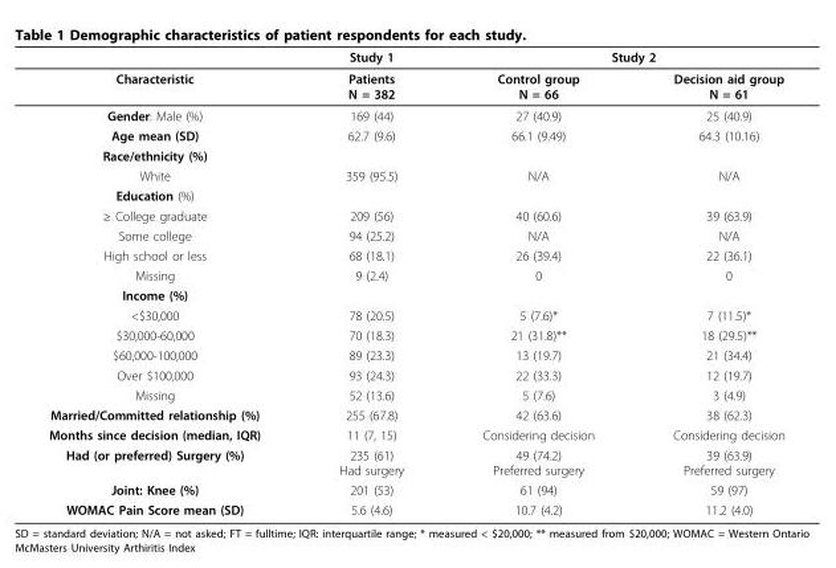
<table><thead><tr><td rowspan="2">Characteristic</td><td rowspan="2">Study 1 Patients N = 382</td><td colspan="2">Study 2</td></tr><tr><td>Control group N = 66</td><td>Decision aid group N = 61</td></tr></thead><tbody><tr><td>Gender: Male (%)</td><td>169 (44)</td><td>27 (40.9)</td><td>25 (40.9)</td></tr><tr><td>Age mean (SD)</td><td>62.7 (9.6)</td><td>66.1 (9.49)</td><td>64.3 (10.16)</td></tr><tr><td colspan="4">Race/ethnicity (%)</td></tr><tr><td>White</td><td>359 (95.5)</td><td>N/A</td><td>N/A</td></tr><tr><td colspan="4">Education (%)</td></tr><tr><td>≥ College graduate</td><td>209 (56)</td><td>40 (60.6)</td><td>39 (63.9)</td></tr><tr><td>Some college</td><td>94 (25.2)</td><td>N/A</td><td>N/A</td></tr><tr><td>High school or less</td><td>68 (18.1)</td><td>26 (39.4)</td><td>22 (36.1)</td></tr><tr><td>Missing</td><td>9 (2.4)</td><td>0</td><td>0</td></tr><tr><td colspan="4">Income (%)</td></tr><tr><td>&lt;$30,000</td><td>78 (20.5)</td><td>5 (7.6)*</td><td>7 (11.5)*</td></tr><tr><td>$30,000-60,000</td><td>70 (18.3)</td><td>21 (31.8)**</td><td>18 (29.5)**</td></tr><tr><td>$60,000-100,000</td><td>89 (23.3)</td><td>13 (19.7)</td><td>21 (34.4)</td></tr><tr><td>Over $100,000</td><td>93 (24.3)</td><td>22 (33.3)</td><td>12 (19.7)</td></tr><tr><td>Missing</td><td>52 (13.6)</td><td>5 (7.6)</td><td>3 (4.9)</td></tr><tr><td>Married/Committed relationship (%)</td><td>255 (67.8)</td><td>42 (63.6)</td><td>38 (62.3)</td></tr><tr><td>Months since decision (median, IQR)</td><td>11 (7, 15)</td><td>Considering decision</td><td>Considering decision</td></tr><tr><td>Had (or preferred) Surgery (%)</td><td>235 (61) Had surgery</td><td>49 (74.2) Preferred surgery</td><td>39 (63.9) Preferred surgery</td></tr><tr><td>Joint: Knee (%)</td><td>201 (53)</td><td>61 (94)</td><td>59 (97)</td></tr><tr><td>WOMAC Pain Score mean (SD)</td><td>5.6 (4.6)</td><td>10.7 (4.2)</td><td>11.2 (4.0)</td></tr></tbody></table>